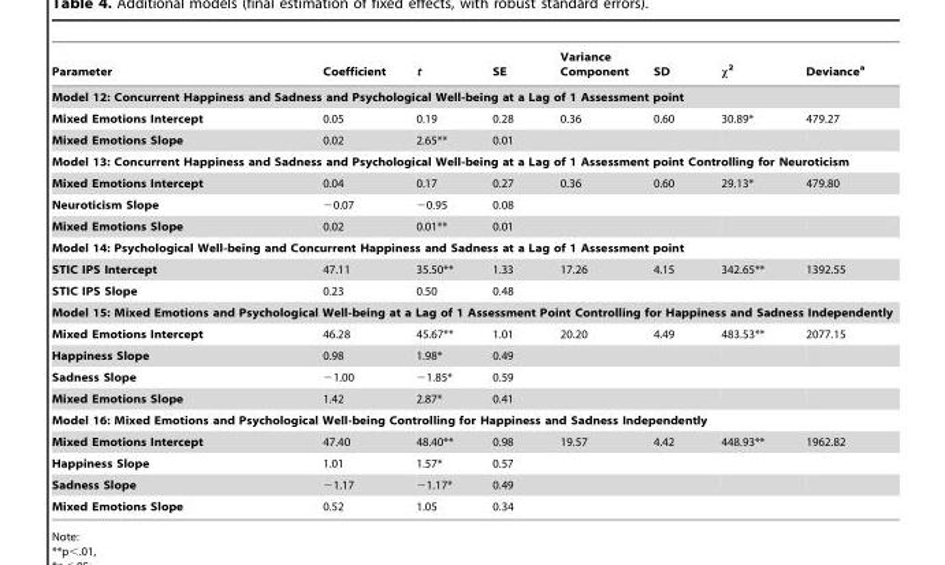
<table><thead><tr><td>Parameter</td><td>Coefficient</td><td>t</td><td>SE</td><td>Variance Component</td><td>SD</td><td>χ<sup>2</sup></td><td>Deviance<sup>a</sup></td></tr></thead><tbody><tr><td colspan="8">Model 12: Concurrent Happiness and Sadness and Psychological Well-being at a Lag of 1 Assessment point</td></tr><tr><td>Mixed Emotions Intercept</td><td>0.05</td><td>0.19</td><td>0.28</td><td>0.36</td><td>0.60</td><td>30.89*</td><td>479.27</td></tr><tr><td>Mixed Emotions Slope</td><td>0.02</td><td>2.65**</td><td>0.01</td><td></td><td></td><td></td><td></td></tr><tr><td colspan="8">Model 13: Concurrent Happiness and Sadness and Psychological Well-being at a Lag of 1 Assessment point Controlling for Neuroticism</td></tr><tr><td>Mixed Emotions Intercept</td><td>0.04</td><td>0.17</td><td>0.27</td><td>0.36</td><td>0.60</td><td>29.13*</td><td>479.80</td></tr><tr><td>Neuroticism Slope</td><td>−0.07</td><td>−0.95</td><td>0.08</td><td></td><td></td><td></td><td></td></tr><tr><td>Mixed Emotions Slope</td><td>0.02</td><td>0.01**</td><td>0.01</td><td></td><td></td><td></td><td></td></tr><tr><td colspan="8">Model 14: Psychological Well-being and Concurrent Happiness and Sadness at a Lag of 1 Assessment point</td></tr><tr><td>STIC IPS Intercept</td><td>47.11</td><td>35.50**</td><td>1.33</td><td>17.26</td><td>4.15</td><td>342.65**</td><td>1392.55</td></tr><tr><td>STIC IPS Slope</td><td>0.23</td><td>0.50</td><td>0.48</td><td></td><td></td><td></td><td></td></tr><tr><td colspan="8">Model 15: Mixed Emotions and Psychological Well-being at a Lag of 1 Assessment Point Controlling for Happiness and Sadness Independently</td></tr><tr><td>Mixed Emotions Intercept</td><td>46.28</td><td>45.67**</td><td>1.01</td><td>20.20</td><td>4.49</td><td>483.53**</td><td>2077.15</td></tr><tr><td>Happiness Slope</td><td>0.98</td><td>1.98*</td><td>0.49</td><td></td><td></td><td></td><td></td></tr><tr><td>Sadness Slope</td><td>−1.00</td><td>−1.85*</td><td>0.59</td><td></td><td></td><td></td><td></td></tr><tr><td>Mixed Emotions Slope</td><td>1.42</td><td>2.87*</td><td>0.41</td><td></td><td></td><td></td><td></td></tr><tr><td colspan="8">Model 16: Mixed Emotions and Psychological Well-being Controlling for Happiness and Sadness Independently</td></tr><tr><td>Mixed Emotions Intercept</td><td>47.40</td><td>48.40**</td><td>0.98</td><td>19.57</td><td>4.42</td><td>448.93**</td><td>1962.82</td></tr><tr><td>Happiness Slope</td><td>1.01</td><td>1.57*</td><td>0.57</td><td></td><td></td><td></td><td></td></tr><tr><td>Sadness Slope</td><td>−1.17</td><td>−1.17*</td><td>0.49</td><td></td><td></td><td></td><td></td></tr><tr><td>Mixed Emotions Slope</td><td>0.52</td><td>1.05</td><td>0.34</td><td></td><td></td><td></td><td></td></tr></tbody></table>